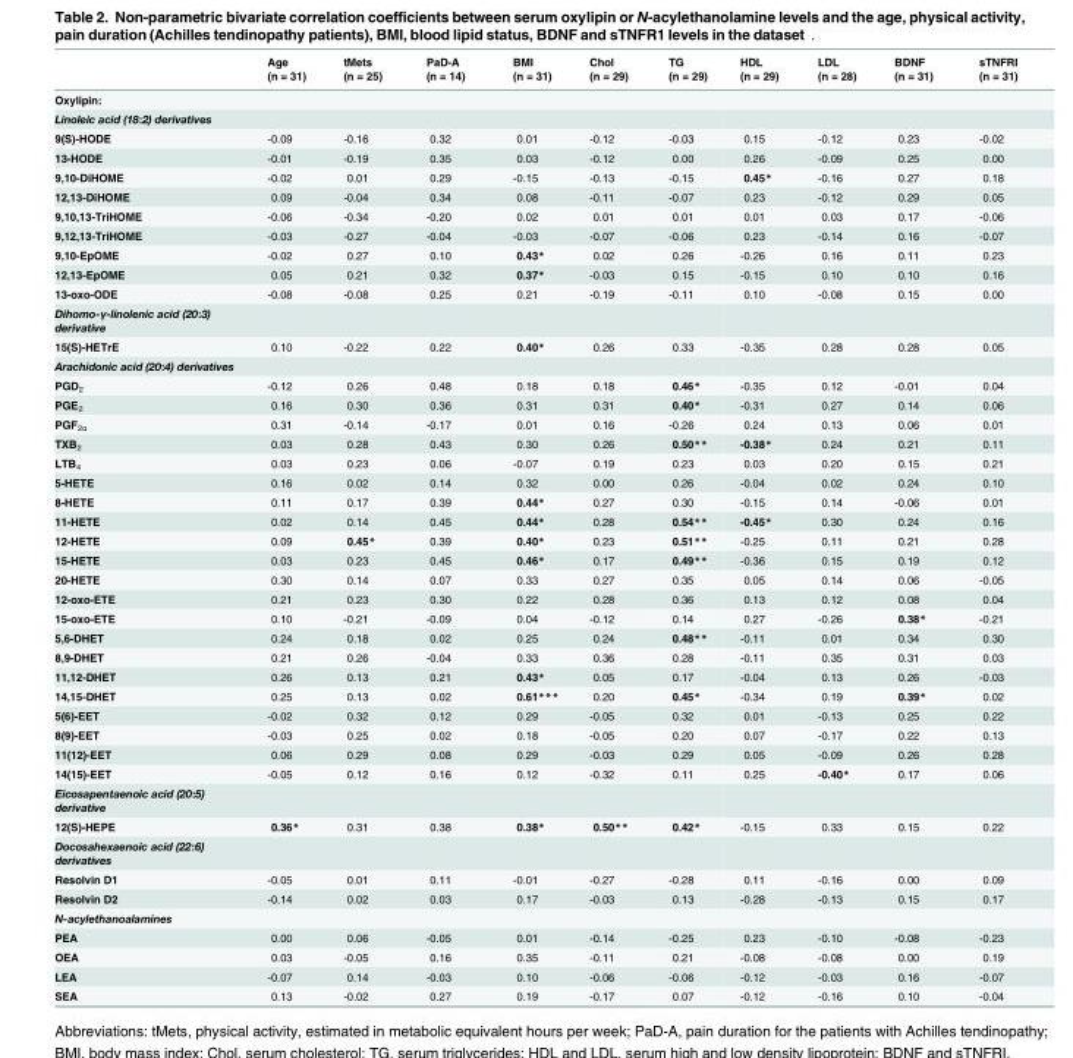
<table><thead><tr><td></td><td>Age (n = 31)</td><td>tMets (n = 25)</td><td>PaD-A (n = 14)</td><td>BMI (n = 31)</td><td>Chol (n = 29)</td><td>TG (n = 29)</td><td>HDL (n = 29)</td><td>LDL (n = 28)</td><td>BDNF (n = 31)</td><td>sTNFRI (n = 31)</td></tr></thead><tbody><tr><td colspan="11">Oxylipin:</td></tr><tr><td colspan="11">Linoleic acid (18:2) derivatives</td></tr><tr><td>9(S)-HODE</td><td>-0.09</td><td>-0.16</td><td>0.32</td><td>0.01</td><td>-0.12</td><td>-0.03</td><td>0.15</td><td>-0.12</td><td>0.23</td><td>-0.02</td></tr><tr><td>13-HODE</td><td>-0.01</td><td>-0.19</td><td>0.35</td><td>0.03</td><td>-0.12</td><td>0.00</td><td>0.26</td><td>-0.09</td><td>0.25</td><td>0.00</td></tr><tr><td>9,10-DiHOME</td><td>-0.02</td><td>0.01</td><td>0.29</td><td>-0.15</td><td>-0.13</td><td>-0.15</td><td>0.45*</td><td>-0.16</td><td>0.27</td><td>0.18</td></tr><tr><td>12,13-DiHOME</td><td>0.09</td><td>-0.04</td><td>0.34</td><td>0.08</td><td>-0.11</td><td>-0.07</td><td>0.23</td><td>-0.12</td><td>0.29</td><td>0.05</td></tr><tr><td>9,10,13-TriHOME</td><td>-0.06</td><td>-0.34</td><td>-0.20</td><td>0.02</td><td>0.01</td><td>0.01</td><td>0.01</td><td>0.03</td><td>0.17</td><td>-0.06</td></tr><tr><td>9,12,13-TriHOME</td><td>-0.03</td><td>-0.27</td><td>-0.04</td><td>-0.03</td><td>-0.07</td><td>-0.06</td><td>0.23</td><td>-0.14</td><td>0.16</td><td>-0.07</td></tr><tr><td>9,10-EpOME</td><td>-0.02</td><td>0.27</td><td>0.10</td><td>0.43*</td><td>0.02</td><td>0.26</td><td>-0.26</td><td>0.16</td><td>0.11</td><td>0.23</td></tr><tr><td>12,13-EpOME</td><td>0.05</td><td>0.21</td><td>0.32</td><td>0.37*</td><td>-0.03</td><td>0.15</td><td>-0.15</td><td>0.10</td><td>0.10</td><td>0.16</td></tr><tr><td>13-oxo-ODE</td><td>-0.08</td><td>-0.08</td><td>0.25</td><td>0.21</td><td>-0.19</td><td>-0.11</td><td>0.10</td><td>-0.08</td><td>0.15</td><td>0.00</td></tr><tr><td colspan="11">Dihomo-γ-linolenic acid (20:3) derivative</td></tr><tr><td>15(S)-HETrE</td><td>0.10</td><td>-0.22</td><td>0.22</td><td>0.40*</td><td>0.26</td><td>0.33</td><td>-0.35</td><td>0.28</td><td>0.28</td><td>0.05</td></tr><tr><td colspan="11">Arachidonic acid (20:4) derivatives</td></tr><tr><td>PGD<sub>2</sub></td><td>-0.12</td><td>0.26</td><td>0.48</td><td>0.18</td><td>0.18</td><td>0.46*</td><td>-0.35</td><td>0.12</td><td>-0.01</td><td>0.04</td></tr><tr><td>PGE<sub>2</sub></td><td>0.16</td><td>0.30</td><td>0.36</td><td>0.31</td><td>0.31</td><td>0.40*</td><td>-0.31</td><td>0.27</td><td>0.14</td><td>0.06</td></tr><tr><td>PGF<sub>2α</sub></td><td>0.31</td><td>-0.14</td><td>-0.17</td><td>0.01</td><td>0.16</td><td>-0.26</td><td>0.24</td><td>0.13</td><td>0.06</td><td>0.01</td></tr><tr><td>TXB<sub>2</sub></td><td>0.03</td><td>0.28</td><td>0.43</td><td>0.30</td><td>0.26</td><td>0.50**</td><td>-0.38*</td><td>0.24</td><td>0.21</td><td>0.11</td></tr><tr><td>LTB<sub>4</sub></td><td>0.03</td><td>0.23</td><td>0.06</td><td>-0.07</td><td>0.19</td><td>0.23</td><td>0.03</td><td>0.20</td><td>0.15</td><td>0.21</td></tr><tr><td>5-HETE</td><td>0.16</td><td>0.02</td><td>0.14</td><td>0.32</td><td>0.00</td><td>0.26</td><td>-0.04</td><td>0.02</td><td>0.24</td><td>0.10</td></tr><tr><td>8-HETE</td><td>0.11</td><td>0.17</td><td>0.39</td><td>0.44*</td><td>0.27</td><td>0.30</td><td>-0.15</td><td>0.14</td><td>-0.06</td><td>0.01</td></tr><tr><td>11-HETE</td><td>0.02</td><td>0.14</td><td>0.45</td><td>0.44*</td><td>0.28</td><td>0.54**</td><td>-0.45*</td><td>0.30</td><td>0.24</td><td>0.16</td></tr><tr><td>12-HETE</td><td>0.09</td><td>0.45*</td><td>0.39</td><td>0.40*</td><td>0.23</td><td>0.51**</td><td>-0.25</td><td>0.11</td><td>0.21</td><td>0.28</td></tr><tr><td>15-HETE</td><td>0.03</td><td>0.23</td><td>0.45</td><td>0.46*</td><td>0.17</td><td>0.49**</td><td>-0.36</td><td>0.15</td><td>0.19</td><td>0.12</td></tr><tr><td>20-HETE</td><td>0.30</td><td>0.14</td><td>0.07</td><td>0.33</td><td>0.27</td><td>0.35</td><td>0.05</td><td>0.14</td><td>0.06</td><td>-0.05</td></tr><tr><td>12-oxo-ETE</td><td>0.21</td><td>0.23</td><td>0.30</td><td>0.22</td><td>0.28</td><td>0.36</td><td>0.13</td><td>0.12</td><td>0.08</td><td>0.04</td></tr><tr><td>15-oxo-ETE</td><td>0.10</td><td>-0.21</td><td>-0.09</td><td>0.04</td><td>-0.12</td><td>0.14</td><td>0.27</td><td>-0.26</td><td>0.38*</td><td>-0.21</td></tr><tr><td>5,6-DHET</td><td>0.24</td><td>0.18</td><td>0.02</td><td>0.25</td><td>0.24</td><td>0.48**</td><td>-0.11</td><td>0.01</td><td>0.34</td><td>0.30</td></tr><tr><td>8,9-DHET</td><td>0.21</td><td>0.26</td><td>-0.04</td><td>0.33</td><td>0.36</td><td>0.28</td><td>-0.11</td><td>0.35</td><td>0.31</td><td>0.03</td></tr><tr><td>11,12-DHET</td><td>0.26</td><td>0.13</td><td>0.21</td><td>0.43*</td><td>0.05</td><td>0.17</td><td>-0.04</td><td>0.13</td><td>0.26</td><td>-0.03</td></tr><tr><td>14,15-DHET</td><td>0.25</td><td>0.13</td><td>0.02</td><td>0.61***</td><td>0.20</td><td>0.45*</td><td>-0.34</td><td>0.19</td><td>0.39*</td><td>0.02</td></tr><tr><td>5(6)-EET</td><td>-0.02</td><td>0.32</td><td>0.12</td><td>0.29</td><td>-0.05</td><td>0.32</td><td>0.01</td><td>-0.13</td><td>0.25</td><td>0.22</td></tr><tr><td>8(9)-EET</td><td>-0.03</td><td>0.25</td><td>0.02</td><td>0.18</td><td>-0.05</td><td>0.20</td><td>0.07</td><td>-0.17</td><td>0.22</td><td>0.13</td></tr><tr><td>11(12)-EET</td><td>0.06</td><td>0.29</td><td>0.08</td><td>0.29</td><td>-0.03</td><td>0.29</td><td>0.05</td><td>-0.09</td><td>0.26</td><td>0.28</td></tr><tr><td>14(15)-EET</td><td>-0.05</td><td>0.12</td><td>0.16</td><td>0.12</td><td>-0.32</td><td>0.11</td><td>0.25</td><td>-0.40*</td><td>0.17</td><td>0.06</td></tr><tr><td colspan="11">Eicosapentaenoic acid (20:5) derivative</td></tr><tr><td>12(S)-HEPE</td><td>0.36*</td><td>0.31</td><td>0.38</td><td>0.38*</td><td>0.50**</td><td>0.42*</td><td>-0.15</td><td>0.33</td><td>0.15</td><td>0.22</td></tr><tr><td colspan="11">Docosahexaenoic acid (22:6) derivatives</td></tr><tr><td>Resolvin D1</td><td>-0.05</td><td>0.01</td><td>0.11</td><td>-0.01</td><td>-0.27</td><td>-0.28</td><td>0.11</td><td>-0.16</td><td>0.00</td><td>0.09</td></tr><tr><td>Resolvin D2</td><td>-0.14</td><td>0.02</td><td>0.03</td><td>0.17</td><td>-0.03</td><td>0.13</td><td>-0.28</td><td>-0.13</td><td>0.15</td><td>0.17</td></tr><tr><td colspan="11">N-acylethanoalamines</td></tr><tr><td>PEA</td><td>0.00</td><td>0.06</td><td>-0.05</td><td>0.01</td><td>-0.14</td><td>-0.25</td><td>0.23</td><td>-0.10</td><td>-0.08</td><td>-0.23</td></tr><tr><td>OEA</td><td>0.03</td><td>-0.05</td><td>0.16</td><td>0.35</td><td>-0.11</td><td>0.21</td><td>-0.08</td><td>-0.08</td><td>0.00</td><td>0.19</td></tr><tr><td>LEA</td><td>-0.07</td><td>0.14</td><td>-0.03</td><td>0.10</td><td>-0.06</td><td>-0.06</td><td>-0.12</td><td>-0.03</td><td>0.16</td><td>-0.07</td></tr><tr><td>SEA</td><td>0.13</td><td>-0.02</td><td>0.27</td><td>0.19</td><td>-0.17</td><td>0.07</td><td>-0.12</td><td>-0.16</td><td>0.10</td><td>-0.04</td></tr></tbody></table>